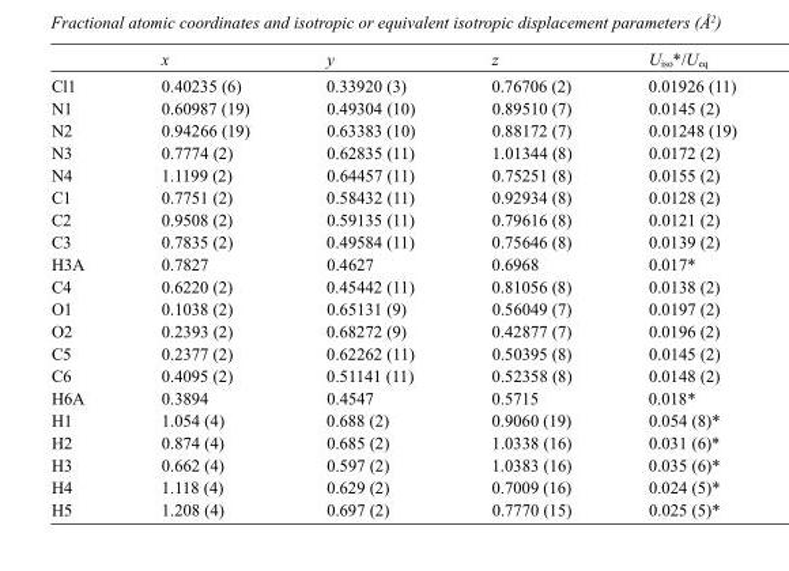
<table><thead><tr><td></td><td>x</td><td>y</td><td>z</td><td>U<sub>iso</sub>*/U<sub>eq</sub></td></tr></thead><tbody><tr><td>Cl1</td><td>0.40235 (6)</td><td>0.33920 (3)</td><td>0.76706 (2)</td><td>0.01926 (11)</td></tr><tr><td>N1</td><td>0.60987 (19)</td><td>0.49304 (10)</td><td>0.89510 (7)</td><td>0.0145 (2)</td></tr><tr><td>N2</td><td>0.94266 (19)</td><td>0.63383 (10)</td><td>0.88172 (7)</td><td>0.01248 (19)</td></tr><tr><td>N3</td><td>0.7774 (2)</td><td>0.62835 (11)</td><td>1.01344 (8)</td><td>0.0172 (2)</td></tr><tr><td>N4</td><td>1.1199 (2)</td><td>0.64457 (11)</td><td>0.75251 (8)</td><td>0.0155 (2)</td></tr><tr><td>C1</td><td>0.7751 (2)</td><td>0.58432 (11)</td><td>0.92934 (8)</td><td>0.0128 (2)</td></tr><tr><td>C2</td><td>0.9508 (2)</td><td>0.59135 (11)</td><td>0.79616 (8)</td><td>0.0121 (2)</td></tr><tr><td>C3</td><td>0.7835 (2)</td><td>0.49584 (11)</td><td>0.75646 (8)</td><td>0.0139 (2)</td></tr><tr><td>H3A</td><td>0.7827</td><td>0.4627</td><td>0.6968</td><td>0.017*</td></tr><tr><td>C4</td><td>0.6220 (2)</td><td>0.45442 (11)</td><td>0.81056 (8)</td><td>0.0138 (2)</td></tr><tr><td>O1</td><td>0.1038 (2)</td><td>0.65131 (9)</td><td>0.56049 (7)</td><td>0.0197 (2)</td></tr><tr><td>O2</td><td>0.2393 (2)</td><td>0.68272 (9)</td><td>0.42877 (7)</td><td>0.0196 (2)</td></tr><tr><td>C5</td><td>0.2377 (2)</td><td>0.62262 (11)</td><td>0.50395 (8)</td><td>0.0145 (2)</td></tr><tr><td>C6</td><td>0.4095 (2)</td><td>0.51141 (11)</td><td>0.52358 (8)</td><td>0.0148 (2)</td></tr><tr><td>H6A</td><td>0.3894</td><td>0.4547</td><td>0.5715</td><td>0.018*</td></tr><tr><td>H1</td><td>1.054 (4)</td><td>0.688 (2)</td><td>0.9060 (19)</td><td>0.054 (8)*</td></tr><tr><td>H2</td><td>0.874 (4)</td><td>0.685 (2)</td><td>1.0338 (16)</td><td>0.031 (6)*</td></tr><tr><td>H3</td><td>0.662 (4)</td><td>0.597 (2)</td><td>1.0383 (16)</td><td>0.035 (6)*</td></tr><tr><td>H4</td><td>1.118 (4)</td><td>0.629 (2)</td><td>0.7009 (16)</td><td>0.024 (5)*</td></tr><tr><td>H5</td><td>1.208 (4)</td><td>0.697 (2)</td><td>0.7770 (15)</td><td>0.025 (5)*</td></tr></tbody></table>